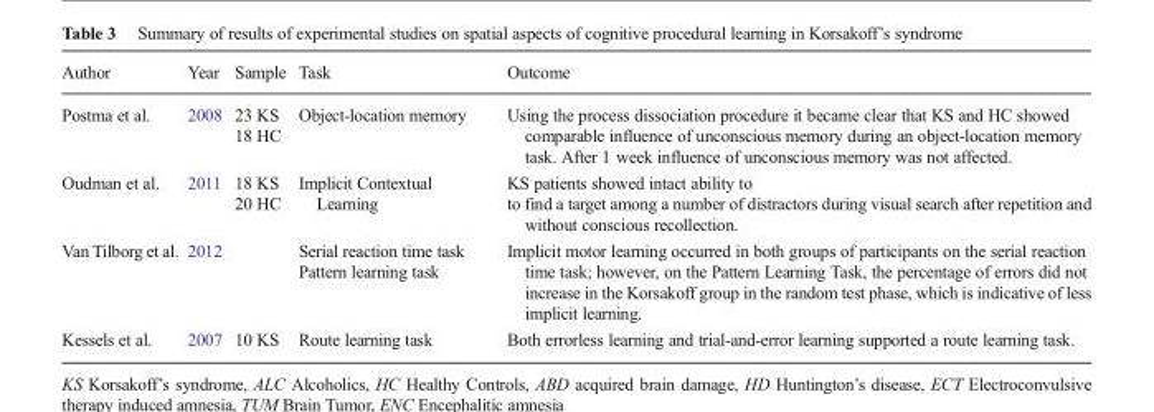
<table><thead><tr><td>Author</td><td>Year</td><td>Sample</td><td>Task</td><td>Outcome</td></tr></thead><tbody><tr><td>Postma et al.</td><td>2008</td><td>23 KS 18 HC</td><td>Object-location memory</td><td>Using the process dissociation procedure it became clear that KS and HC showed comparable influence of unconscious memory during an object-location memory task. After 1 week influence of unconscious memory was not affected.</td></tr><tr><td>Oudman et al.</td><td>2011</td><td>18 KS 20 HC</td><td>Implicit Contextual Learning</td><td>KS patients showed intact ability to to find a target among a number of distractors during visual search after repetition and without conscious recollection.</td></tr><tr><td>Van Tilborg et al.</td><td>2012</td><td></td><td>Serial reaction time task Pattern learning task</td><td>Implicit motor learning occurred in both groups of participants on the serial reaction time task; however, on the Pattern Learning Task, the percentage of errors did not increase in the Korsakoff group in the random test phase, which is indicative of less implicit learning.</td></tr><tr><td>Kessels et al.</td><td>2007</td><td>10 KS</td><td>Route learning task</td><td>Both errorless learning and trial-and-error learning supported a route learning task.</td></tr></tbody></table>